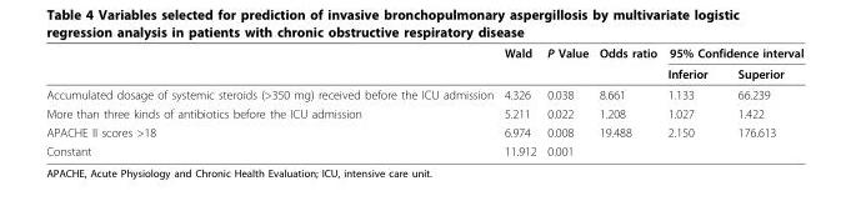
<table><thead><tr><td rowspan="2"></td><td rowspan="2">Wald</td><td rowspan="2">P Value</td><td rowspan="2">Odds ratio</td><td colspan="2">95% Confidence interval</td></tr><tr><td>Inferior</td><td>Superior</td></tr></thead><tbody><tr><td>Accumulated dosage of systemic steroids (&gt;350 mg) received before the ICU admission</td><td>4.326</td><td>0.038</td><td>8.661</td><td>1.133</td><td>66.239</td></tr><tr><td>More than three kinds of antibiotics before the ICU admission</td><td>5.211</td><td>0.022</td><td>1.208</td><td>1.027</td><td>1.422</td></tr><tr><td>APACHE II scores &gt;18</td><td>6.974</td><td>0.008</td><td>19.488</td><td>2.150</td><td>176.613</td></tr><tr><td>Constant</td><td>11.912</td><td>0.001</td><td></td><td></td><td></td></tr></tbody></table>